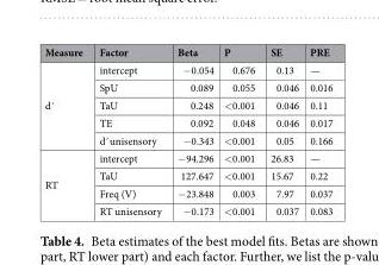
<table><thead><tr><td>Measure</td><td>Factor</td><td>Beta</td><td>P</td><td>SE</td><td>PRE</td></tr></thead><tbody><tr><td rowspan="5">dʹ</td><td>intercept</td><td>−0.054</td><td>0.676</td><td>0.13</td><td>—</td></tr><tr><td>SpU</td><td>0.089</td><td>0.055</td><td>0.046</td><td>0.016</td></tr><tr><td>TaU</td><td>0.248</td><td>&lt;0.001</td><td>0.046</td><td>0.11</td></tr><tr><td>TE</td><td>0.092</td><td>0.048</td><td>0.046</td><td>0.017</td></tr><tr><td>dʹ unisensory</td><td>−0.343</td><td>&lt;0.001</td><td>0.05</td><td>0.166</td></tr><tr><td rowspan="4">RT</td><td>intercept</td><td>−94.296</td><td>&lt;0.001</td><td>26.83</td><td>—</td></tr><tr><td>TaU</td><td>127.647</td><td>&lt;0.001</td><td>15.67</td><td>0.22</td></tr><tr><td>Freq (V)</td><td>−23.848</td><td>0.003</td><td>7.97</td><td>0.037</td></tr><tr><td>RT unisensory</td><td>−0.173</td><td>&lt;0.001</td><td>0.037</td><td>0.083</td></tr></tbody></table>